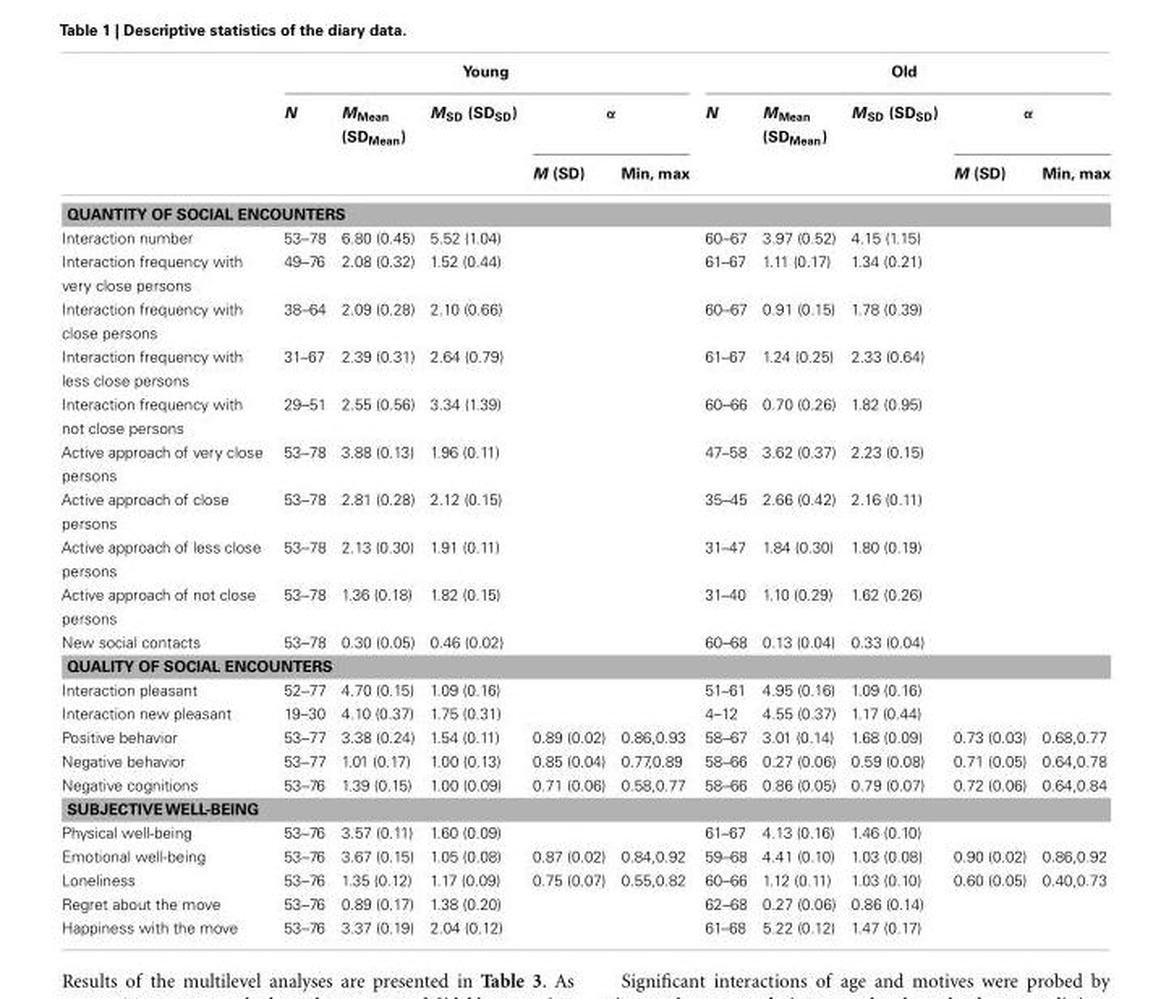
<table><thead><tr><td rowspan="3"></td><td colspan="5">Young</td><td colspan="5">Old</td></tr><tr><td rowspan="2">N</td><td rowspan="2">M<sub>Mean</sub> (SD<sub>Mean</sub>)</td><td rowspan="2">M<sub>SD</sub> (SD<sub>SD</sub>)</td><td colspan="2">α</td><td rowspan="2">N</td><td rowspan="2">M<sub>Mean</sub> (SD<sub>Mean</sub>)</td><td rowspan="2">M<sub>SD</sub> (SD<sub>SD</sub>)</td><td colspan="2">α</td></tr><tr><td>M (SD)</td><td>Min, max</td><td>M (SD)</td><td>Min, max</td></tr></thead><tbody><tr><td colspan="11">QUANTITY OF SOCIAL ENCOUNTERS</td></tr><tr><td>Interaction number</td><td>53–78</td><td>6.80 (0.45)</td><td>5.52 (1.04)</td><td></td><td></td><td>60–67</td><td>3.97 (0.52)</td><td>4.15 (1.15)</td><td></td><td></td></tr><tr><td>Interaction frequency with very close persons</td><td>49–76</td><td>2.08 (0.32)</td><td>1.52 (0.44)</td><td></td><td></td><td>61–67</td><td>1.11 (0.17)</td><td>1.34 (0.21)</td><td></td><td></td></tr><tr><td>Interaction frequency with close persons</td><td>38–64</td><td>2.09 (0.28)</td><td>2.10 (0.66)</td><td></td><td></td><td>60–67</td><td>0.91 (0.15)</td><td>1.78 (0.39)</td><td></td><td></td></tr><tr><td>Interaction frequency with less close persons</td><td>31–67</td><td>2.39 (0.31)</td><td>2.64 (0.79)</td><td></td><td></td><td>61–67</td><td>1.24 (0.25)</td><td>2.33 (0.64)</td><td></td><td></td></tr><tr><td>Interaction frequency with not close persons</td><td>29–51</td><td>2.55 (0.56)</td><td>3.34 (1.39)</td><td></td><td></td><td>60–66</td><td>0.70 (0.26)</td><td>1.82 (0.95)</td><td></td><td></td></tr><tr><td>Active approach of very close persons</td><td>53–78</td><td>3.88 (0.13)</td><td>1.96 (0.11)</td><td></td><td></td><td>47–58</td><td>3.62 (0.37)</td><td>2.23 (0.15)</td><td></td><td></td></tr><tr><td>Active approach of close persons</td><td>53–78</td><td>2.81 (0.28)</td><td>2.12 (0.15)</td><td></td><td></td><td>35–45</td><td>2.66 (0.42)</td><td>2.16 (0.11)</td><td></td><td></td></tr><tr><td>Active approach of less close persons</td><td>53–78</td><td>2.13 (0.30)</td><td>1.91 (0.11)</td><td></td><td></td><td>31–47</td><td>1.84 (0.30)</td><td>1.80 (0.19)</td><td></td><td></td></tr><tr><td>Active approach of not close persons</td><td>53–78</td><td>1.36 (0.18)</td><td>1.82 (0.15)</td><td></td><td></td><td>31–40</td><td>1.10 (0.29)</td><td>1.62 (0.26)</td><td></td><td></td></tr><tr><td>New social contacts</td><td>53–78</td><td>0.30 (0.05)</td><td>0.46 (0.02)</td><td></td><td></td><td>60–68</td><td>0.13 (0.04)</td><td>0.33 (0.04)</td><td></td><td></td></tr><tr><td colspan="11">QUALITY OF SOCIAL ENCOUNTERS</td></tr><tr><td>Interaction pleasant</td><td>52–77</td><td>4.70 (0.15)</td><td>1.09 (0.16)</td><td></td><td></td><td>51–61</td><td>4.95 (0.16)</td><td>1.09 (0.16)</td><td></td><td></td></tr><tr><td>Interaction new pleasant</td><td>19–30</td><td>4.10 (0.37)</td><td>1.75 (0.31)</td><td></td><td></td><td>4–12</td><td>4.55 (0.37)</td><td>1.17 (0.44)</td><td></td><td></td></tr><tr><td>Positive behavior</td><td>53–77</td><td>3.38 (0.24)</td><td>1.54 (0.11)</td><td>0.89 (0.02)</td><td>0.86,0.93</td><td>58–67</td><td>3.01 (0.14)</td><td>1.68 (0.09)</td><td>0.73 (0.03)</td><td>0.68,0.77</td></tr><tr><td>Negative behavior</td><td>53–77</td><td>1.01 (0.17)</td><td>1.00 (0.13)</td><td>0.85 (0.04)</td><td>0.77,0.89</td><td>58–66</td><td>0.27 (0.06)</td><td>0.59 (0.08)</td><td>0.71 (0.05)</td><td>0.64,0.78</td></tr><tr><td>Negative cognitions</td><td>53–76</td><td>1.39 (0.15)</td><td>1.00 (0.09)</td><td>0.71 (0.06)</td><td>0.58,0.77</td><td>58–66</td><td>0.86 (0.05)</td><td>0.79 (0.07)</td><td>0.72 (0.06)</td><td>0.64,0.84</td></tr><tr><td colspan="11">SUBJECTIVE WELL-BEING</td></tr><tr><td>Physical well-being</td><td>53–76</td><td>3.57 (0.11)</td><td>1.60 (0.09)</td><td></td><td></td><td>61–67</td><td>4.13 (0.16)</td><td>1.46 (0.10)</td><td></td><td></td></tr><tr><td>Emotional well-being</td><td>53–76</td><td>3.67 (0.15)</td><td>1.05 (0.08)</td><td>0.87 (0.02)</td><td>0.84,0.92</td><td>59–68</td><td>4.41 (0.10)</td><td>1.03 (0.08)</td><td>0.90 (0.02)</td><td>0.86,0.92</td></tr><tr><td>Loneliness</td><td>53–76</td><td>1.35 (0.12)</td><td>1.17 (0.09)</td><td>0.75 (0.07)</td><td>0.55,0.82</td><td>60–66</td><td>1.12 (0.11)</td><td>1.03 (0.10)</td><td>0.60 (0.05)</td><td>0.40,0.73</td></tr><tr><td>Regret about the move</td><td>53–76</td><td>0.89 (0.17)</td><td>1.38 (0.20)</td><td></td><td></td><td>62–68</td><td>0.27 (0.06)</td><td>0.86 (0.14)</td><td></td><td></td></tr><tr><td>Happiness with the move</td><td>53–76</td><td>3.37 (0.19)</td><td>2.04 (0.12)</td><td></td><td></td><td>61–68</td><td>5.22 (0.12)</td><td>1.47 (0.17)</td><td></td><td></td></tr></tbody></table>